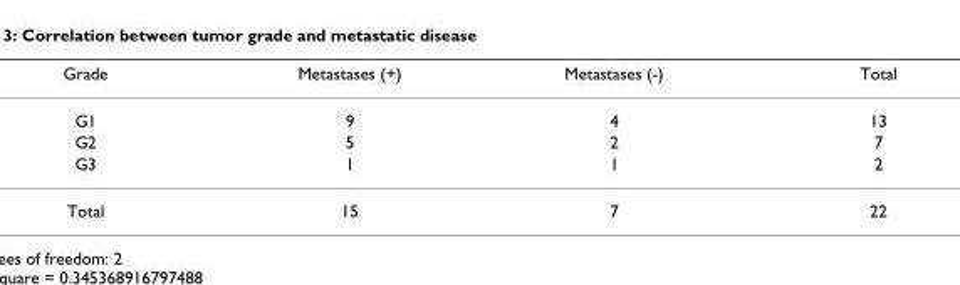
<table><thead><tr><td>Grade</td><td>Metastases (+)</td><td>Metastases (-)</td><td>Total</td></tr></thead><tbody><tr><td>G1</td><td>9</td><td>4</td><td>13</td></tr><tr><td>G2</td><td>5</td><td>2</td><td>7</td></tr><tr><td>G3</td><td>1</td><td>1</td><td>2</td></tr><tr><td>Total</td><td>15</td><td>7</td><td>22</td></tr></tbody></table>